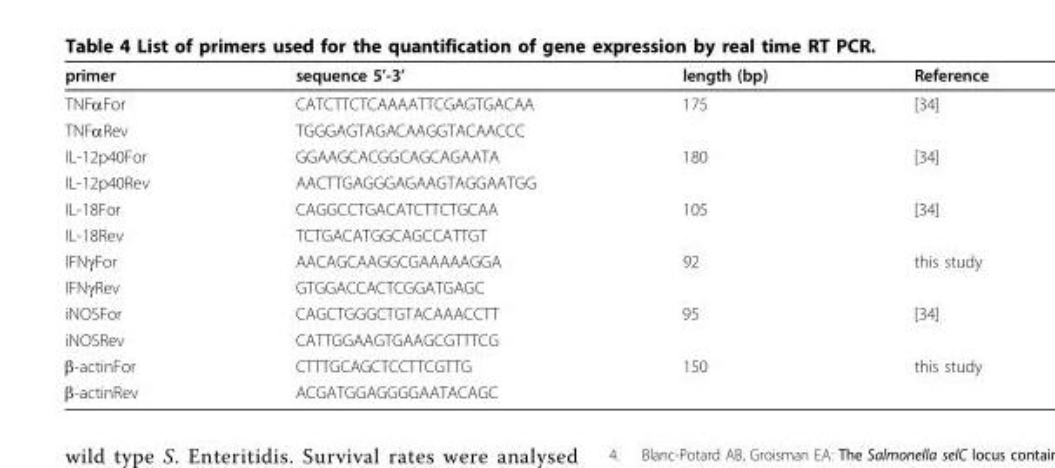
<table><thead><tr><td>primer</td><td>sequence 5’-3’</td><td>length (bp)</td><td>Reference</td></tr></thead><tbody><tr><td>TNFαFor</td><td>CATCTTCTCAAAATTCGAGTGACAA</td><td>175</td><td>[34]</td></tr><tr><td>TNFαRev</td><td>TGGGAGTAGACAAGGTACAACCC</td><td></td><td></td></tr><tr><td>IL-12p40For</td><td>GGAAGCACGGCAGCAGAATA</td><td>180</td><td>[34]</td></tr><tr><td>IL-12p40Rev</td><td>AACTTGAGGGAGAAGTAGGAATGG</td><td></td><td></td></tr><tr><td>IL-18For</td><td>CAGGCCTGACATCTTCTGCAA</td><td>105</td><td>[34]</td></tr><tr><td>IL-18Rev</td><td>TCTGACATGGCAGCCATTGT</td><td></td><td></td></tr><tr><td>IFNγFor</td><td>AACAGCAAGGCGAAAAAGGA</td><td>92</td><td>this study</td></tr><tr><td>IFNγRev</td><td>GTGGACCACTCGGATGAGC</td><td></td><td></td></tr><tr><td>iNOSFor</td><td>CAGCTGGGCTGTACAAACCTT</td><td>95</td><td>[34]</td></tr><tr><td>iNOSRev</td><td>CATTGGAAGTGAAGCGTTTCG</td><td></td><td></td></tr><tr><td>β-actinFor</td><td>CTTTGCAGCTCCTTCGTTG</td><td>150</td><td>this study</td></tr><tr><td>β-actinRev</td><td>ACGATGGAGGGGAATACAGC</td><td></td><td></td></tr></tbody></table>